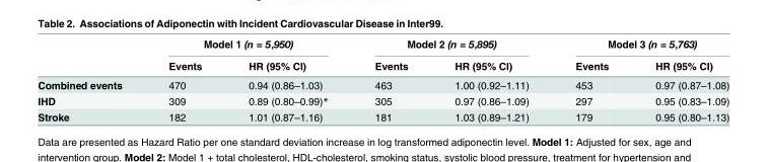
<table><thead><tr><td rowspan="2"></td><td colspan="2">Model 1 (n = 5,950)</td><td colspan="2">Model 2 (n = 5,895)</td><td colspan="2">Model 3 (n = 5,763)</td></tr><tr><td>Events</td><td>HR (95% CI)</td><td>Events</td><td>HR (95% CI)</td><td>Events</td><td>HR (95% CI)</td></tr></thead><tbody><tr><td>Combined events</td><td>470</td><td>0.94 (0.86–1.03)</td><td>463</td><td>1.00 (0.92–1.11)</td><td>453</td><td>0.97 (0.87–1.08)</td></tr><tr><td>IHD</td><td>309</td><td>0.89 (0.80–0.99)*</td><td>305</td><td>0.97 (0.86–1.09)</td><td>297</td><td>0.95 (0.83–1.09)</td></tr><tr><td>Stroke</td><td>182</td><td>1.01 (0.87–1.16)</td><td>181</td><td>1.03 (0.89–1.21)</td><td>179</td><td>0.95 (0.80–1.13)</td></tr></tbody></table>